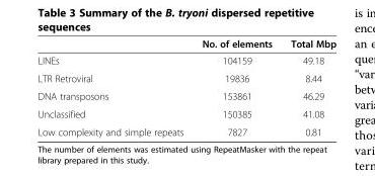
<table><thead><tr><td></td><td>No. of elements</td><td>Total Mbp</td></tr></thead><tbody><tr><td>LINEs</td><td>104159</td><td>49.18</td></tr><tr><td>LTR Retroviral</td><td>19836</td><td>8.44</td></tr><tr><td>DNA transposons</td><td>153861</td><td>46.29</td></tr><tr><td>Unclassified</td><td>150385</td><td>41.08</td></tr><tr><td>Low complexity and simple repeats</td><td>7827</td><td>0.81</td></tr></tbody></table>